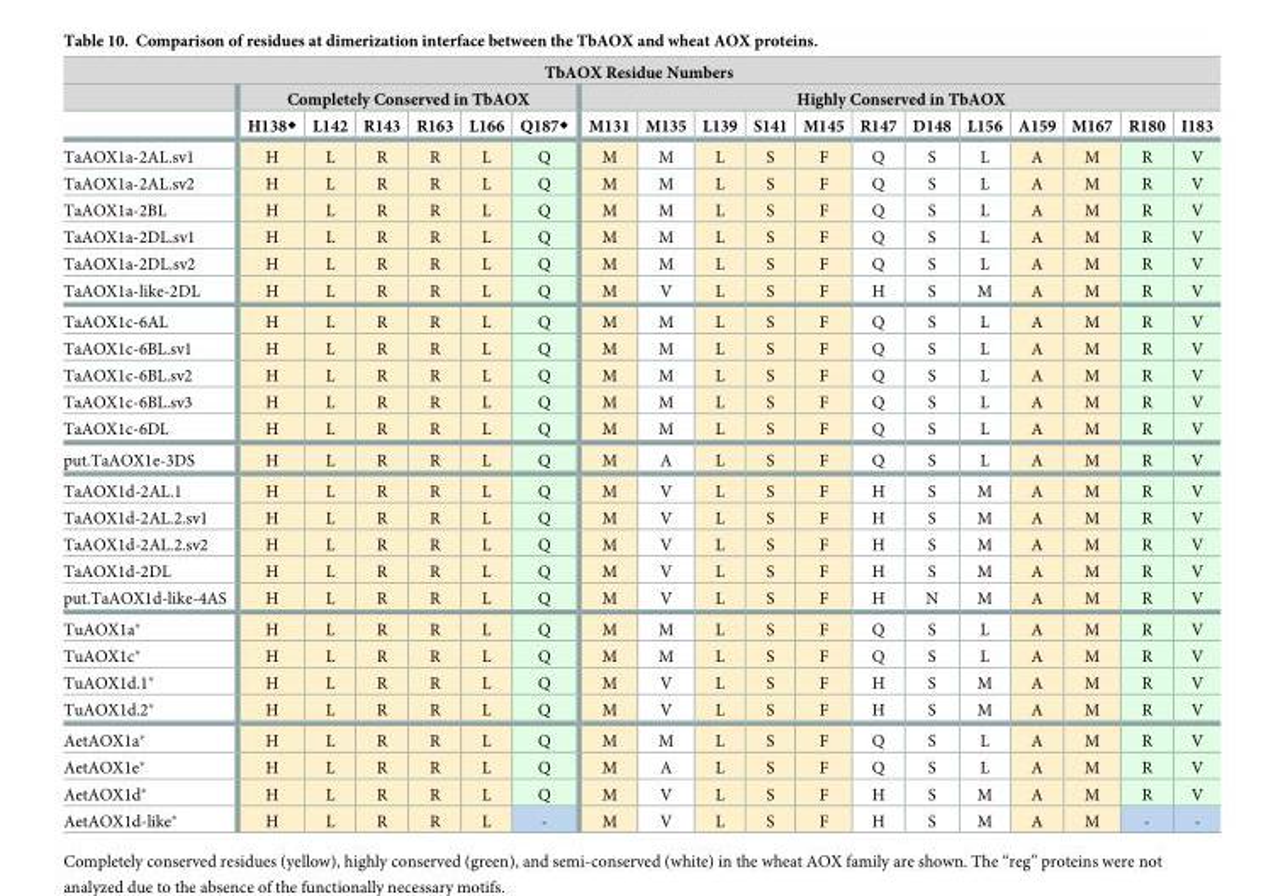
<table><thead><tr><td colspan="19">TbAOX Residue Numbers</td></tr><tr><td rowspan="2"></td><td colspan="6">Completely Conserved in TbAOX</td><td colspan="12">Highly Conserved in TbAOX</td></tr><tr><td>H138◆</td><td>L142</td><td>R143</td><td>R163</td><td>L166</td><td>Q187◆</td><td>M131</td><td>M135</td><td>L139</td><td>S141</td><td>M145</td><td>R147</td><td>D148</td><td>L156</td><td>A159</td><td>M167</td><td>R180</td><td>I183</td></tr></thead><tbody><tr><td>TaAOX1a-2AL.sv1</td><td>H</td><td>L</td><td>R</td><td>R</td><td>L</td><td>Q</td><td>M</td><td>M</td><td>L</td><td>S</td><td>F</td><td>Q</td><td>S</td><td>L</td><td>A</td><td>M</td><td>R</td><td>V</td></tr><tr><td>TaAOX1a-2AL.sv2</td><td>H</td><td>L</td><td>R</td><td>R</td><td>L</td><td>Q</td><td>M</td><td>M</td><td>L</td><td>S</td><td>F</td><td>Q</td><td>S</td><td>L</td><td>A</td><td>M</td><td>R</td><td>V</td></tr><tr><td>TaAOX1a-2BL</td><td>H</td><td>L</td><td>R</td><td>R</td><td>L</td><td>Q</td><td>M</td><td>M</td><td>L</td><td>S</td><td>F</td><td>Q</td><td>S</td><td>L</td><td>A</td><td>M</td><td>R</td><td>V</td></tr><tr><td>TaAOX1a-2DL.sv1</td><td>H</td><td>L</td><td>R</td><td>R</td><td>L</td><td>Q</td><td>M</td><td>M</td><td>L</td><td>S</td><td>F</td><td>Q</td><td>S</td><td>L</td><td>A</td><td>M</td><td>R</td><td>V</td></tr><tr><td>TaAOX1a-2DL.sv2</td><td>H</td><td>L</td><td>R</td><td>R</td><td>L</td><td>Q</td><td>M</td><td>M</td><td>L</td><td>S</td><td>F</td><td>Q</td><td>S</td><td>L</td><td>A</td><td>M</td><td>R</td><td>V</td></tr><tr><td>TaAOX1a-like-2DL</td><td>H</td><td>L</td><td>R</td><td>R</td><td>L</td><td>Q</td><td>M</td><td>V</td><td>L</td><td>S</td><td>F</td><td>H</td><td>S</td><td>M</td><td>A</td><td>M</td><td>R</td><td>V</td></tr><tr><td>TaAOX1c-6AL</td><td>H</td><td>L</td><td>R</td><td>R</td><td>L</td><td>Q</td><td>M</td><td>M</td><td>L</td><td>S</td><td>F</td><td>Q</td><td>S</td><td>L</td><td>A</td><td>M</td><td>R</td><td>V</td></tr><tr><td>TaAOX1c-6BL.sv1</td><td>H</td><td>L</td><td>R</td><td>R</td><td>L</td><td>Q</td><td>M</td><td>M</td><td>L</td><td>S</td><td>F</td><td>Q</td><td>S</td><td>L</td><td>A</td><td>M</td><td>R</td><td>V</td></tr><tr><td>TaAOX1c-6BL.sv2</td><td>H</td><td>L</td><td>R</td><td>R</td><td>L</td><td>Q</td><td>M</td><td>M</td><td>L</td><td>S</td><td>F</td><td>Q</td><td>S</td><td>L</td><td>A</td><td>M</td><td>R</td><td>V</td></tr><tr><td>TaAOX1c-6BL.sv3</td><td>H</td><td>L</td><td>R</td><td>R</td><td>L</td><td>Q</td><td>M</td><td>M</td><td>L</td><td>S</td><td>F</td><td>Q</td><td>S</td><td>L</td><td>A</td><td>M</td><td>R</td><td>V</td></tr><tr><td>TaAOX1c-6DL</td><td>H</td><td>L</td><td>R</td><td>R</td><td>L</td><td>Q</td><td>M</td><td>M</td><td>L</td><td>S</td><td>F</td><td>Q</td><td>S</td><td>L</td><td>A</td><td>M</td><td>R</td><td>V</td></tr><tr><td>put.TaAOX1e-3DS</td><td>H</td><td>L</td><td>R</td><td>R</td><td>L</td><td>Q</td><td>M</td><td>A</td><td>L</td><td>S</td><td>F</td><td>Q</td><td>S</td><td>L</td><td>A</td><td>M</td><td>R</td><td>V</td></tr><tr><td>TaAOX1d-2AL.1</td><td>H</td><td>L</td><td>R</td><td>R</td><td>L</td><td>Q</td><td>M</td><td>V</td><td>L</td><td>S</td><td>F</td><td>H</td><td>S</td><td>M</td><td>A</td><td>M</td><td>R</td><td>V</td></tr><tr><td>TaAOX1d-2AL.2.sv1</td><td>H</td><td>L</td><td>R</td><td>R</td><td>L</td><td>Q</td><td>M</td><td>V</td><td>L</td><td>S</td><td>F</td><td>H</td><td>S</td><td>M</td><td>A</td><td>M</td><td>R</td><td>V</td></tr><tr><td>TaAOX1d-2AL.2.sv2</td><td>H</td><td>L</td><td>R</td><td>R</td><td>L</td><td>Q</td><td>M</td><td>V</td><td>L</td><td>S</td><td>F</td><td>H</td><td>S</td><td>M</td><td>A</td><td>M</td><td>R</td><td>V</td></tr><tr><td>TaAOX1d-2DL</td><td>H</td><td>L</td><td>R</td><td>R</td><td>L</td><td>Q</td><td>M</td><td>V</td><td>L</td><td>S</td><td>F</td><td>H</td><td>S</td><td>M</td><td>A</td><td>M</td><td>R</td><td>V</td></tr><tr><td>put.TaAOX1d-like-4AS</td><td>H</td><td>L</td><td>R</td><td>R</td><td>L</td><td>Q</td><td>M</td><td>V</td><td>L</td><td>S</td><td>F</td><td>H</td><td>N</td><td>M</td><td>A</td><td>M</td><td>R</td><td>V</td></tr><tr><td>TuAOX1a*</td><td>H</td><td>L</td><td>R</td><td>R</td><td>L</td><td>Q</td><td>M</td><td>M</td><td>L</td><td>S</td><td>F</td><td>Q</td><td>S</td><td>L</td><td>A</td><td>M</td><td>R</td><td>V</td></tr><tr><td>TuAOX1c*</td><td>H</td><td>L</td><td>R</td><td>R</td><td>L</td><td>Q</td><td>M</td><td>M</td><td>L</td><td>S</td><td>F</td><td>Q</td><td>S</td><td>L</td><td>A</td><td>M</td><td>R</td><td>V</td></tr><tr><td>TuAOX1d.1*</td><td>H</td><td>L</td><td>R</td><td>R</td><td>L</td><td>Q</td><td>M</td><td>V</td><td>L</td><td>S</td><td>F</td><td>H</td><td>S</td><td>M</td><td>A</td><td>M</td><td>R</td><td>V</td></tr><tr><td>TuAOX1d.2*</td><td>H</td><td>L</td><td>R</td><td>R</td><td>L</td><td>Q</td><td>M</td><td>V</td><td>L</td><td>S</td><td>F</td><td>H</td><td>S</td><td>M</td><td>A</td><td>M</td><td>R</td><td>V</td></tr><tr><td>AetAOX1a*</td><td>H</td><td>L</td><td>R</td><td>R</td><td>L</td><td>Q</td><td>M</td><td>M</td><td>L</td><td>S</td><td>F</td><td>Q</td><td>S</td><td>L</td><td>A</td><td>M</td><td>R</td><td>V</td></tr><tr><td>AetAOX1e*</td><td>H</td><td>L</td><td>R</td><td>R</td><td>L</td><td>Q</td><td>M</td><td>A</td><td>L</td><td>S</td><td>F</td><td>Q</td><td>S</td><td>L</td><td>A</td><td>M</td><td>R</td><td>V</td></tr><tr><td>AetAOX1d*</td><td>H</td><td>L</td><td>R</td><td>R</td><td>L</td><td>Q</td><td>M</td><td>V</td><td>L</td><td>S</td><td>F</td><td>H</td><td>S</td><td>M</td><td>A</td><td>M</td><td>R</td><td>V</td></tr><tr><td>AetAOX1d-like*</td><td>H</td><td>L</td><td>R</td><td>R</td><td>L</td><td>-</td><td>M</td><td>V</td><td>L</td><td>S</td><td>F</td><td>H</td><td>S</td><td>M</td><td>A</td><td>M</td><td>-</td><td>-</td></tr></tbody></table>